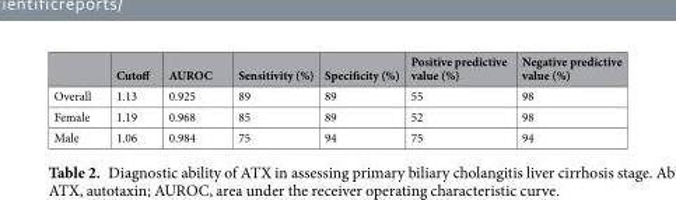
<table><thead><tr><td></td><td>Cutoff</td><td>AUROC</td><td>Sensitivity (%)</td><td>Specificity (%)</td><td>Positive predictive value (%)</td><td>Negative predictive value (%)</td></tr></thead><tbody><tr><td>Overall</td><td>1.13</td><td>0.925</td><td>89</td><td>89</td><td>55</td><td>98</td></tr><tr><td>Female</td><td>1.19</td><td>0.968</td><td>85</td><td>89</td><td>52</td><td>98</td></tr><tr><td>Male</td><td>1.06</td><td>0.984</td><td>75</td><td>94</td><td>75</td><td>94</td></tr></tbody></table>